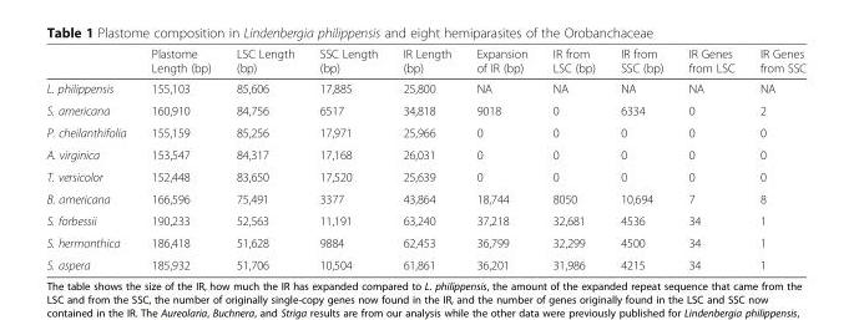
<table><thead><tr><td></td><td>Plastome Length (bp)</td><td>LSC Length (bp)</td><td>SSC Length (bp)</td><td>IR Length (bp)</td><td>Expansion of IR (bp)</td><td>IR from LSC (bp)</td><td>IR from SSC (bp)</td><td>IR Genes from LSC</td><td>IR Genes from SSC</td></tr></thead><tbody><tr><td>L. philippensis</td><td>155,103</td><td>85,606</td><td>17,885</td><td>25,800</td><td>NA</td><td>NA</td><td>NA</td><td>NA</td><td>NA</td></tr><tr><td>S. americana</td><td>160,910</td><td>84,756</td><td>6517</td><td>34,818</td><td>9018</td><td>0</td><td>6334</td><td>0</td><td>2</td></tr><tr><td>P. cheilanthifolia</td><td>155,159</td><td>85,256</td><td>17,971</td><td>25,966</td><td>0</td><td>0</td><td>0</td><td>0</td><td>0</td></tr><tr><td>A. virginica</td><td>153,547</td><td>84,317</td><td>17,168</td><td>26,031</td><td>0</td><td>0</td><td>0</td><td>0</td><td>0</td></tr><tr><td>T. versicolor</td><td>152,448</td><td>83,650</td><td>17,520</td><td>25,639</td><td>0</td><td>0</td><td>0</td><td>0</td><td>0</td></tr><tr><td>B. americana</td><td>166,596</td><td>75,491</td><td>3377</td><td>43,864</td><td>18,744</td><td>8050</td><td>10,694</td><td>7</td><td>8</td></tr><tr><td>S. forbessii</td><td>190,233</td><td>52,563</td><td>11,191</td><td>63,240</td><td>37,218</td><td>32,681</td><td>4536</td><td>34</td><td>1</td></tr><tr><td>S. hermonthica</td><td>186,418</td><td>51,628</td><td>9884</td><td>62,453</td><td>36,799</td><td>32,299</td><td>4500</td><td>34</td><td>1</td></tr><tr><td>S. aspera</td><td>185,932</td><td>51,706</td><td>10,504</td><td>61,861</td><td>36,201</td><td>31,986</td><td>4215</td><td>34</td><td>1</td></tr></tbody></table>